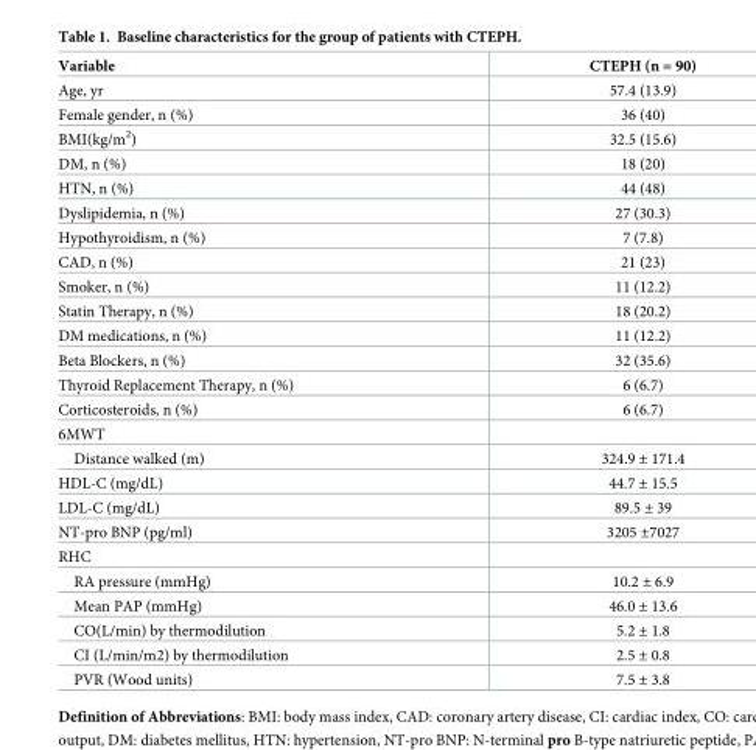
<table><thead><tr><td>Variable</td><td>CTEPH (n = 90)</td></tr></thead><tbody><tr><td>Age, yr</td><td>57.4 (13.9)</td></tr><tr><td>Female gender, n (%)</td><td>36 (40)</td></tr><tr><td>BMI(kg/m<sup>2</sup>)</td><td>32.5 (15.6)</td></tr><tr><td>DM, n (%)</td><td>18 (20)</td></tr><tr><td>HTN, n (%)</td><td>44 (48)</td></tr><tr><td>Dyslipidemia, n (%)</td><td>27 (30.3)</td></tr><tr><td>Hypothyroidism, n (%)</td><td>7 (7.8)</td></tr><tr><td>CAD, n (%)</td><td>21 (23)</td></tr><tr><td>Smoker, n (%)</td><td>11 (12.2)</td></tr><tr><td>Statin Therapy, n (%)</td><td>18 (20.2)</td></tr><tr><td>DM medications, n (%)</td><td>11 (12.2)</td></tr><tr><td>Beta Blockers, n (%)</td><td>32 (35.6)</td></tr><tr><td>Thyroid Replacement Therapy, n (%)</td><td>6 (6.7)</td></tr><tr><td>Corticosteroids, n (%)</td><td>6 (6.7)</td></tr><tr><td colspan="2">6MWT</td></tr><tr><td>Distance walked (m)</td><td>324.9 ± 171.4</td></tr><tr><td>HDL-C (mg/dL)</td><td>44.7 ± 15.5</td></tr><tr><td>LDL-C (mg/dL)</td><td>89.5 ± 39</td></tr><tr><td>NT-pro BNP (pg/ml)</td><td>3205 ±7027</td></tr><tr><td colspan="2">RHC</td></tr><tr><td>RA pressure (mmHg)</td><td>10.2 ± 6.9</td></tr><tr><td>Mean PAP (mmHg)</td><td>46.0 ± 13.6</td></tr><tr><td>CO(L/min) by thermodilution</td><td>5.2 ± 1.8</td></tr><tr><td>CI (L/min/m2) by thermodilution</td><td>2.5 ± 0.8</td></tr><tr><td>PVR (Wood units)</td><td>7.5 ± 3.8</td></tr></tbody></table>